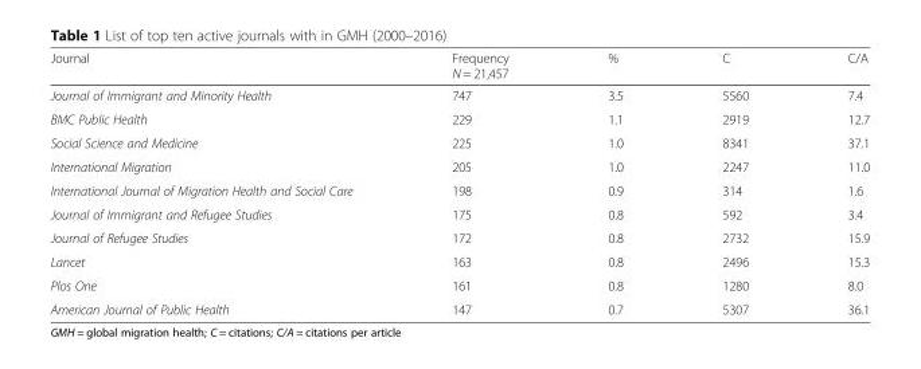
<table><thead><tr><td>Journal</td><td>Frequency N = 21,457</td><td>%</td><td>C</td><td>C/A</td></tr></thead><tbody><tr><td>Journal of Immigrant and Minority Health</td><td>747</td><td>3.5</td><td>5560</td><td>7.4</td></tr><tr><td>BMC Public Health</td><td>229</td><td>1.1</td><td>2919</td><td>12.7</td></tr><tr><td>Social Science and Medicine</td><td>225</td><td>1.0</td><td>8341</td><td>37.1</td></tr><tr><td>International Migration</td><td>205</td><td>1.0</td><td>2247</td><td>11.0</td></tr><tr><td>International Journal of Migration Health and Social Care</td><td>198</td><td>0.9</td><td>314</td><td>1.6</td></tr><tr><td>Journal of Immigrant and Refugee Studies</td><td>175</td><td>0.8</td><td>592</td><td>3.4</td></tr><tr><td>Journal of Refugee Studies</td><td>172</td><td>0.8</td><td>2732</td><td>15.9</td></tr><tr><td>Lancet</td><td>163</td><td>0.8</td><td>2496</td><td>15.3</td></tr><tr><td>Plos One</td><td>161</td><td>0.8</td><td>1280</td><td>8.0</td></tr><tr><td>American Journal of Public Health</td><td>147</td><td>0.7</td><td>5307</td><td>36.1</td></tr></tbody></table>